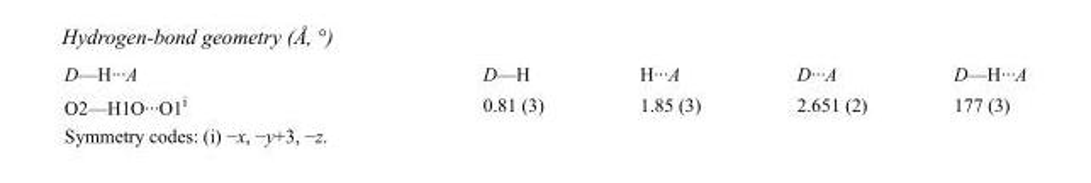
<table><tbody><tr><td>D—H···A</td><td>D—H</td><td>H···A</td><td>D···A</td><td>D—H···A</td></tr><tr><td>O2—H1O···O1<sup>i</sup></td><td>0.81 (3)</td><td>1.85 (3)</td><td>2.651 (2)</td><td>177 (3)</td></tr></tbody></table>